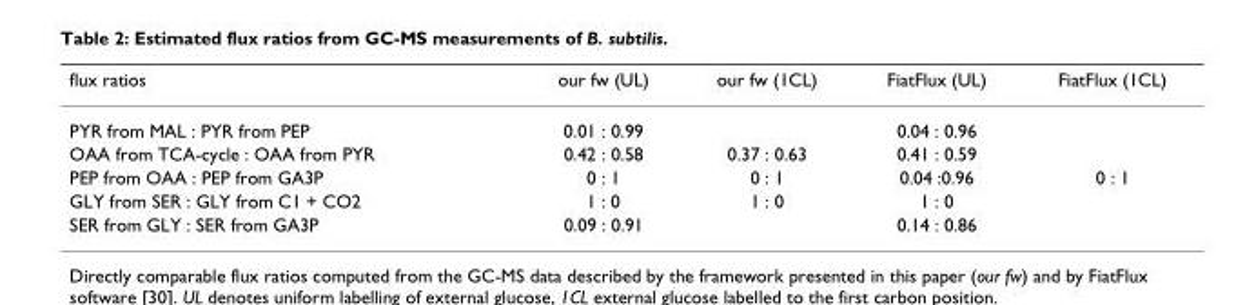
<table><thead><tr><td>flux ratios</td><td>our fw (UL)</td><td>our fw (1CL)</td><td>FiatFlux (UL)</td><td>FiatFlux (1CL)</td></tr></thead><tbody><tr><td>PYR from MAL : PYR from PEP</td><td>0.01 : 0.99</td><td></td><td>0.04 : 0.96</td><td></td></tr><tr><td>OAA from TCA-cycle : OAA from PYR</td><td>0.42 : 0.58</td><td>0.37 : 0.63</td><td>0.41 : 0.59</td><td></td></tr><tr><td>PEP from OAA : PEP from GA3P</td><td>0 : 1</td><td>0 : 1</td><td>0.04 :0.96</td><td>0 : 1</td></tr><tr><td>GLY from SER : GLY from C1 + CO2</td><td>1 : 0</td><td>1 : 0</td><td>1 : 0</td><td></td></tr><tr><td>SER from GLY : SER from GA3P</td><td>0.09 : 0.91</td><td></td><td>0.14 : 0.86</td><td></td></tr></tbody></table>